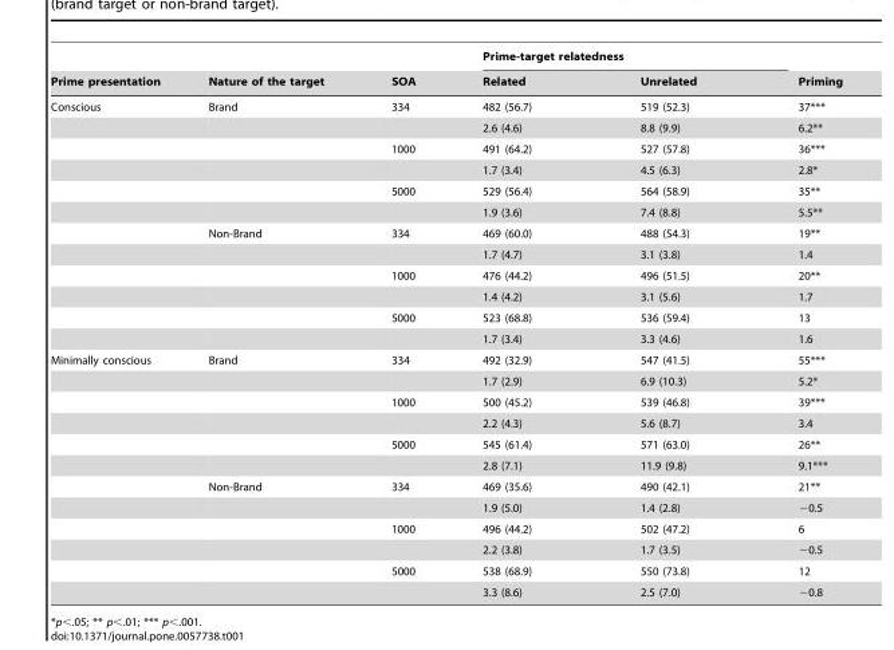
<table><thead><tr><td rowspan="2">Prime presentation</td><td rowspan="2">Nature of the target</td><td rowspan="2">SOA</td><td colspan="2">Prime-target relatedness</td><td rowspan="2">Priming</td></tr><tr><td>Related</td><td>Unrelated</td></tr></thead><tbody><tr><td rowspan="12">Conscious</td><td>Brand</td><td>334</td><td>482 (56.7)</td><td>519 (52.3)</td><td>37***</td></tr><tr><td></td><td></td><td>2.6 (4.6)</td><td>8.8 (9.9)</td><td>6.2**</td></tr><tr><td></td><td>1000</td><td>491 (64.2)</td><td>527 (57.8)</td><td>36***</td></tr><tr><td></td><td></td><td>1.7 (3.4)</td><td>4.5 (6.3)</td><td>2.8*</td></tr><tr><td></td><td>5000</td><td>529 (56.4)</td><td>564 (58.9)</td><td>35**</td></tr><tr><td></td><td></td><td>1.9 (3.6)</td><td>7.4 (8.8)</td><td>5.5**</td></tr><tr><td>Non-Brand</td><td>334</td><td>469 (60.0)</td><td>488 (54.3)</td><td>19**</td></tr><tr><td></td><td></td><td>1.7 (4.7)</td><td>3.1 (3.8)</td><td>1.4</td></tr><tr><td></td><td>1000</td><td>476 (44.2)</td><td>496 (51.5)</td><td>20**</td></tr><tr><td></td><td></td><td>1.4 (4.2)</td><td>3.1 (5.6)</td><td>1.7</td></tr><tr><td></td><td>5000</td><td>523 (68.8)</td><td>536 (59.4)</td><td>13</td></tr><tr><td></td><td></td><td>1.7 (3.4)</td><td>3.3 (4.6)</td><td>1.6</td></tr><tr><td rowspan="12">Minimally conscious</td><td>Brand</td><td>334</td><td>492 (32.9)</td><td>547 (41.5)</td><td>55***</td></tr><tr><td></td><td></td><td>1.7 (2.9)</td><td>6.9 (10.3)</td><td>5.2*</td></tr><tr><td></td><td>1000</td><td>500 (45.2)</td><td>539 (46.8)</td><td>39***</td></tr><tr><td></td><td></td><td>2.2 (4.3)</td><td>5.6 (8.7)</td><td>3.4</td></tr><tr><td></td><td>5000</td><td>545 (61.4)</td><td>571 (63.0)</td><td>26**</td></tr><tr><td></td><td></td><td>2.8 (7.1)</td><td>11.9 (9.8)</td><td>9.1***</td></tr><tr><td>Non-Brand</td><td>334</td><td>469 (35.6)</td><td>490 (42.1)</td><td>21**</td></tr><tr><td></td><td></td><td>1.9 (5.0)</td><td>1.4 (2.8)</td><td>−0.5</td></tr><tr><td></td><td>1000</td><td>496 (44.2)</td><td>502 (47.2)</td><td>6</td></tr><tr><td></td><td></td><td>2.2 (3.8)</td><td>1.7 (3.5)</td><td>−0.5</td></tr><tr><td></td><td>5000</td><td>538 (68.9)</td><td>550 (73.8)</td><td>12</td></tr><tr><td></td><td></td><td>3.3 (8.6)</td><td>2.5 (7.0)</td><td>−0.8</td></tr></tbody></table>